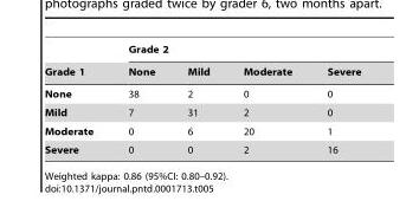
<table><thead><tr><td rowspan="2">Grade 1</td><td colspan="4">Grade 2</td></tr><tr><td>None</td><td>Mild</td><td>Moderate</td><td>Severe</td></tr></thead><tbody><tr><td>None</td><td>38</td><td>2</td><td>0</td><td>0</td></tr><tr><td>Mild</td><td>7</td><td>31</td><td>2</td><td>0</td></tr><tr><td>Moderate</td><td>0</td><td>6</td><td>20</td><td>1</td></tr><tr><td>Severe</td><td>0</td><td>0</td><td>2</td><td>16</td></tr></tbody></table>